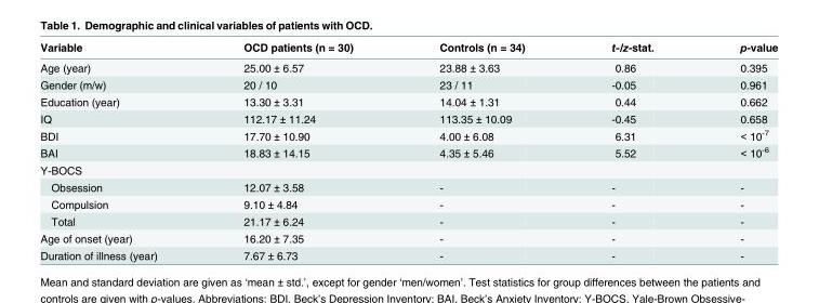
<table><thead><tr><td>Variable</td><td>OCD patients (n = 30)</td><td>Controls (n = 34)</td><td>t-/z-stat.</td><td>p-value</td></tr></thead><tbody><tr><td>Age (year)</td><td>25.00 ± 6.57</td><td>23.88 ± 3.63</td><td>0.86</td><td>0.395</td></tr><tr><td>Gender (m/w)</td><td>20 / 10</td><td>23 / 11</td><td>-0.05</td><td>0.961</td></tr><tr><td>Education (year)</td><td>13.30 ± 3.31</td><td>14.04 ± 1.31</td><td>0.44</td><td>0.662</td></tr><tr><td>IQ</td><td>112.17 ± 11.24</td><td>113.35 ± 10.09</td><td>-0.45</td><td>0.658</td></tr><tr><td>BDI</td><td>17.70 ± 10.90</td><td>4.00 ± 6.08</td><td>6.31</td><td>&lt; 10<sup>-7</sup></td></tr><tr><td>BAI</td><td>18.83 ± 14.15</td><td>4.35 ± 5.46</td><td>5.52</td><td>&lt; 10<sup>-6</sup></td></tr><tr><td colspan="5">Y-BOCS</td></tr><tr><td>Obsession</td><td>12.07 ± 3.58</td><td>-</td><td>-</td><td>-</td></tr><tr><td>Compulsion</td><td>9.10 ± 4.84</td><td>-</td><td>-</td><td>-</td></tr><tr><td>Total</td><td>21.17 ± 6.24</td><td>-</td><td>-</td><td>-</td></tr><tr><td>Age of onset (year)</td><td>16.20 ± 7.35</td><td>-</td><td>-</td><td>-</td></tr><tr><td>Duration of illness (year)</td><td>7.67 ± 6.73</td><td>-</td><td>-</td><td>-</td></tr></tbody></table>